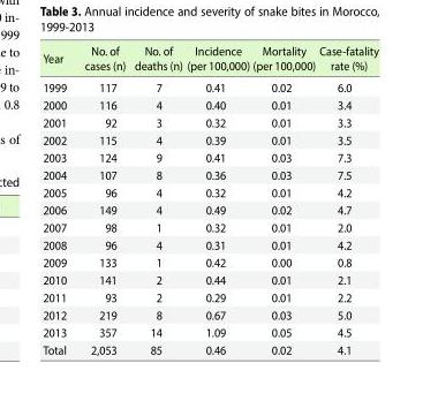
<table><thead><tr><td>Year</td><td>No. of cases (n)</td><td>No. of deaths (n)</td><td>Incidence (per 100,000)</td><td>Mortality (per 100,000)</td><td>Case-fatality rate (%)</td></tr></thead><tbody><tr><td>1999</td><td>117</td><td>7</td><td>0.41</td><td>0.02</td><td>6.0</td></tr><tr><td>2000</td><td>116</td><td>4</td><td>0.40</td><td>0.01</td><td>3.4</td></tr><tr><td>2001</td><td>92</td><td>3</td><td>0.32</td><td>0.01</td><td>3.3</td></tr><tr><td>2002</td><td>115</td><td>4</td><td>0.39</td><td>0.01</td><td>3.5</td></tr><tr><td>2003</td><td>124</td><td>9</td><td>0.41</td><td>0.03</td><td>7.3</td></tr><tr><td>2004</td><td>107</td><td>8</td><td>0.36</td><td>0.03</td><td>7.5</td></tr><tr><td>2005</td><td>96</td><td>4</td><td>0.32</td><td>0.01</td><td>4.2</td></tr><tr><td>2006</td><td>149</td><td>4</td><td>0.49</td><td>0.02</td><td>4.7</td></tr><tr><td>2007</td><td>98</td><td>1</td><td>0.32</td><td>0.01</td><td>2.0</td></tr><tr><td>2008</td><td>96</td><td>4</td><td>0.31</td><td>0.01</td><td>4.2</td></tr><tr><td>2009</td><td>133</td><td>1</td><td>0.42</td><td>0.00</td><td>0.8</td></tr><tr><td>2010</td><td>141</td><td>2</td><td>0.44</td><td>0.01</td><td>2.1</td></tr><tr><td>2011</td><td>93</td><td>2</td><td>0.29</td><td>0.01</td><td>2.2</td></tr><tr><td>2012</td><td>219</td><td>8</td><td>0.67</td><td>0.03</td><td>5.0</td></tr><tr><td>2013</td><td>357</td><td>14</td><td>1.09</td><td>0.05</td><td>4.5</td></tr><tr><td>Total</td><td>2,053</td><td>85</td><td>0.46</td><td>0.02</td><td>4.1</td></tr></tbody></table>